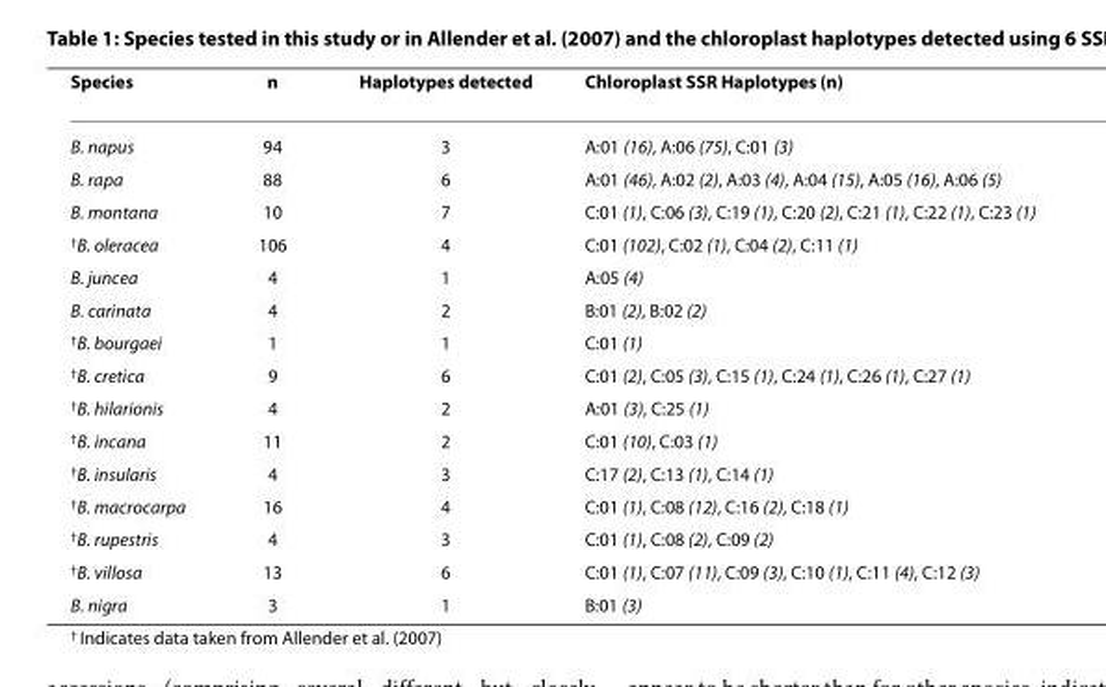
<table><thead><tr><td>Species</td><td>n</td><td>Haplotypes detected</td><td>Chloroplast SSR Haplotypes (n)</td></tr></thead><tbody><tr><td>B. napus</td><td>94</td><td>3</td><td>A:01 (16), A:06 (75), C:01 (3)</td></tr><tr><td>B. rapa</td><td>88</td><td>6</td><td>A:01 (46), A:02 (2), A:03 (4), A:04 (15), A:05 (16), A:06 (5)</td></tr><tr><td>B. montana</td><td>10</td><td>7</td><td>C:01 (1), C:06 (3), C:19 (1), C:20 (2), C:21 (1), C:22 (1), C:23 (1)</td></tr><tr><td><sup>†</sup>B. oleracea</td><td>106</td><td>4</td><td>C:01 (102), C:02 (1), C:04 (2), C:11 (1)</td></tr><tr><td>B. juncea</td><td>4</td><td>1</td><td>A:05 (4)</td></tr><tr><td>B. carinata</td><td>4</td><td>2</td><td>B:01 (2), B:02 (2)</td></tr><tr><td><sup>†</sup>B. bourgaei</td><td>1</td><td>1</td><td>C:01 (1)</td></tr><tr><td><sup>†</sup>B. cretica</td><td>9</td><td>6</td><td>C:01 (2), C:05 (3), C:15 (1), C:24 (1), C:26 (1), C:27 (1)</td></tr><tr><td><sup>†</sup>B. hilarionis</td><td>4</td><td>2</td><td>A:01 (3), C:25 (1)</td></tr><tr><td><sup>†</sup>B. incana</td><td>11</td><td>2</td><td>C:01 (10), C:03 (1)</td></tr><tr><td><sup>†</sup>B. insularis</td><td>4</td><td>3</td><td>C:17 (2), C:13 (1), C:14 (1)</td></tr><tr><td><sup>†</sup>B. macrocarpa</td><td>16</td><td>4</td><td>C:01 (1), C:08 (12), C:16 (2), C:18 (1)</td></tr><tr><td><sup>†</sup>B. rupestris</td><td>4</td><td>3</td><td>C:01 (1), C:08 (2), C:09 (2)</td></tr><tr><td><sup>†</sup>B. villosa</td><td>13</td><td>6</td><td>C:01 (1), C:07 (11), C:09 (3), C:10 (1), C:11 (4), C:12 (3)</td></tr><tr><td>B. nigra</td><td>3</td><td>1</td><td>B:01 (3)</td></tr></tbody></table>